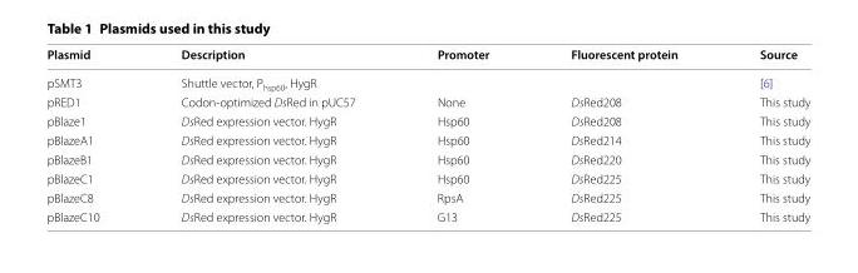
<table><thead><tr><td>Plasmid</td><td>Description</td><td>Promoter</td><td>Fluorescent protein</td><td>Source</td></tr></thead><tbody><tr><td>pSMT3</td><td>Shuttle vector, P<sub>hsp60</sub>, HygR</td><td></td><td></td><td>[6]</td></tr><tr><td>pRED1</td><td>Codon‑optimized DsRed in pUC57</td><td>None</td><td>DsRed208</td><td>This study</td></tr><tr><td>pBlaze1</td><td>DsRed expression vector. HygR</td><td>Hsp60</td><td>DsRed208</td><td>This study</td></tr><tr><td>pBlazeA1</td><td>DsRed expression vector. HygR</td><td>Hsp60</td><td>DsRed214</td><td>This study</td></tr><tr><td>pBlazeB1</td><td>DsRed expression vector. HygR</td><td>Hsp60</td><td>DsRed220</td><td>This study</td></tr><tr><td>pBlazeC1</td><td>DsRed expression vector. HygR</td><td>Hsp60</td><td>DsRed225</td><td>This study</td></tr><tr><td>pBlazeC8</td><td>DsRed expression vector. HygR</td><td>RpsA</td><td>DsRed225</td><td>This study</td></tr><tr><td>pBlazeC10</td><td>DsRed expression vector. HygR</td><td>G13</td><td>DsRed225</td><td>This study</td></tr></tbody></table>